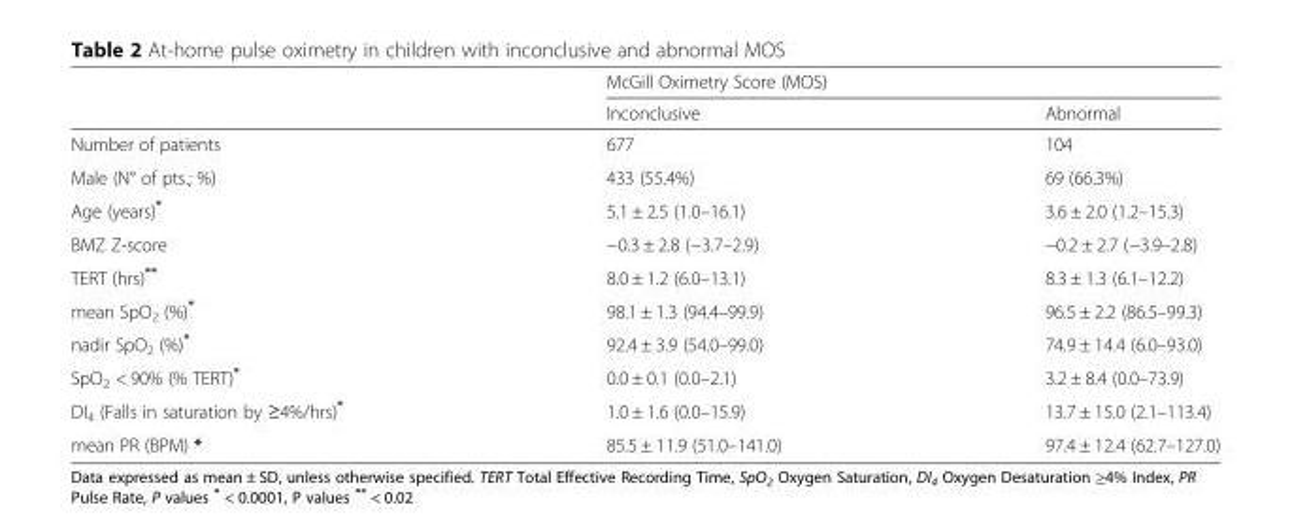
<table><thead><tr><td rowspan="2"></td><td colspan="2">McGill Oximetry Score (MOS)</td></tr><tr><td>Inconclusive</td><td>Abnormal</td></tr></thead><tbody><tr><td>Number of patients</td><td>677</td><td>104</td></tr><tr><td>Male (N° of pts.; %)</td><td>433 (55.4%)</td><td>69 (66.3%)</td></tr><tr><td>Age (years)*</td><td>5.1 ± 2.5 (1.0–16.1)</td><td>3.6 ± 2.0 (1.2–15.3)</td></tr><tr><td>BMZ Z-score</td><td>−0.3 ± 2.8 (−3.7–2.9)</td><td>−0.2 ± 2.7 (−3.9–2.8)</td></tr><tr><td>TERT (hrs)**</td><td>8.0 ± 1.2 (6.0–13.1)</td><td>8.3 ± 1.3 (6.1–12.2)</td></tr><tr><td>mean SpO<sub>2</sub> (%)*</td><td>98.1 ± 1.3 (94.4–99.9)</td><td>96.5 ± 2.2 (86.5–99.3)</td></tr><tr><td>nadir SpO<sub>2</sub> (%)*</td><td>92.4 ± 3.9 (54.0–99.0)</td><td>74.9 ± 14.4 (6.0–93.0)</td></tr><tr><td>SpO<sub>2</sub> &lt; 90% (% TERT)*</td><td>0.0 ± 0.1 (0.0–2.1)</td><td>3.2 ± 8.4 (0.0–73.9)</td></tr><tr><td>DI<sub>4</sub> (Falls in saturation by ≥4%/hrs)*</td><td>1.0 ± 1.6 (0.0–15.9)</td><td>13.7 ± 15.0 (2.1–113.4)</td></tr><tr><td>mean PR (BPM) *</td><td>85.5 ± 11.9 (51.0–141.0)</td><td>97.4 ± 12.4 (62.7–127.0)</td></tr></tbody></table>